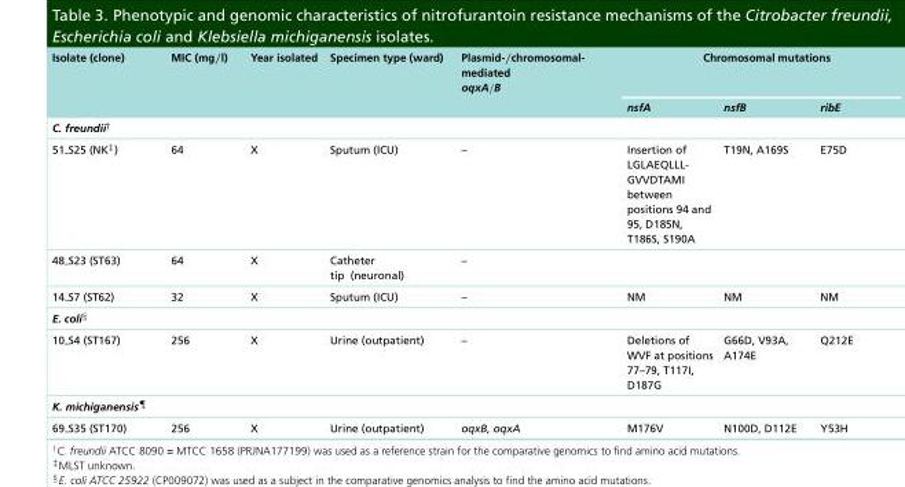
<table><thead><tr><td rowspan="2">Isolate (clone)</td><td rowspan="2">MIC (mg/l)</td><td rowspan="2">Year isolated</td><td rowspan="2">Specimen type (ward)</td><td rowspan="2">Plasmid-/chromosomal- mediated oqxA/B</td><td colspan="3">Chromosomal mutations</td></tr><tr><td>nsfA</td><td>nsfB</td><td>ribE</td></tr></thead><tbody><tr><td colspan="8">C. freundii<sup>†</sup></td></tr><tr><td>51 S25 (NK‡)</td><td>64</td><td>X</td><td>Sputum (ICU)</td><td>–</td><td>Insertion of LGLAEQLLL- GVVDTAMI between positions 94 and 95, D185N, T186S, S190A</td><td>T19N, A169S</td><td>E75D</td></tr><tr><td>48 S23 (ST63)</td><td>64</td><td>X</td><td>Catheter tip (neuronal)</td><td>–</td><td></td><td></td><td></td></tr><tr><td>14 S7 (ST62)</td><td>32</td><td>X</td><td>Sputum (ICU)</td><td>–</td><td>NM</td><td>NM</td><td>NM</td></tr><tr><td colspan="8">E. coli<sup>§</sup></td></tr><tr><td>10 S4 (ST167)</td><td>256</td><td>X</td><td>Urine (outpatient)</td><td>–</td><td>Deletions of WVF at positions 77–79, T117I, D187G</td><td>G66D, V93A, A174E</td><td>Q212E</td></tr><tr><td colspan="8">K. michiganensis<sup>¶</sup></td></tr><tr><td>69 S35 (ST170)</td><td>256</td><td>X</td><td>Urine (outpatient)</td><td>oqxB, oqxA</td><td>M176V</td><td>N100D, D112E</td><td>Y53H</td></tr></tbody></table>